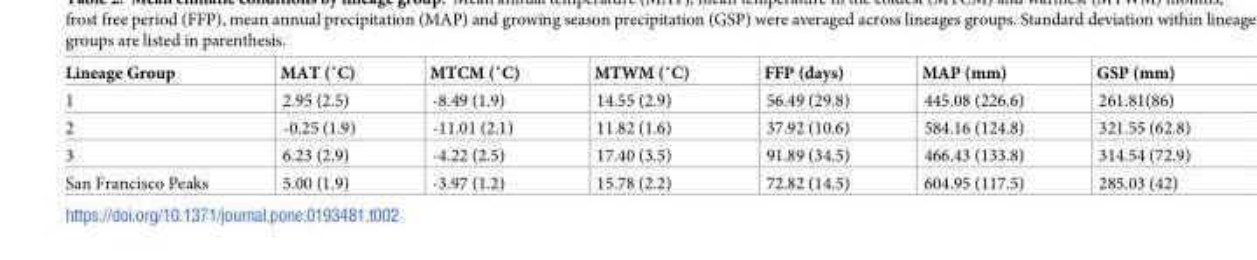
<table><thead><tr><td>Lineage Group</td><td>MAT (˚C)</td><td>MTCM (˚C)</td><td>MTWM (˚C)</td><td>FFP (days)</td><td>MAP (mm)</td><td>GSP (mm)</td></tr></thead><tbody><tr><td>1</td><td>2.95 (2.5)</td><td>-8.49 (1.9)</td><td>14.55 (2.9)</td><td>56.49 (29.8)</td><td>445.08 (226.6)</td><td>261.81(86)</td></tr><tr><td>2</td><td>-0.25 (1.9)</td><td>-11.01 (2.1)</td><td>11.82 (1.6)</td><td>37.92 (10.6)</td><td>584.16 (124.8)</td><td>321.55 (62.8)</td></tr><tr><td>3</td><td>6.23 (2.9)</td><td>-4.22 (2.5)</td><td>17.40 (3.5)</td><td>91.89 (34.5)</td><td>466.43 (133.8)</td><td>314.54 (72.9)</td></tr><tr><td>San Francisco Peaks</td><td>5.00 (1.9)</td><td>-3.97 (1.2)</td><td>15.78 (2.2)</td><td>72.82 (14.5)</td><td>604.95 (117.5)</td><td>285.03 (42)</td></tr></tbody></table>